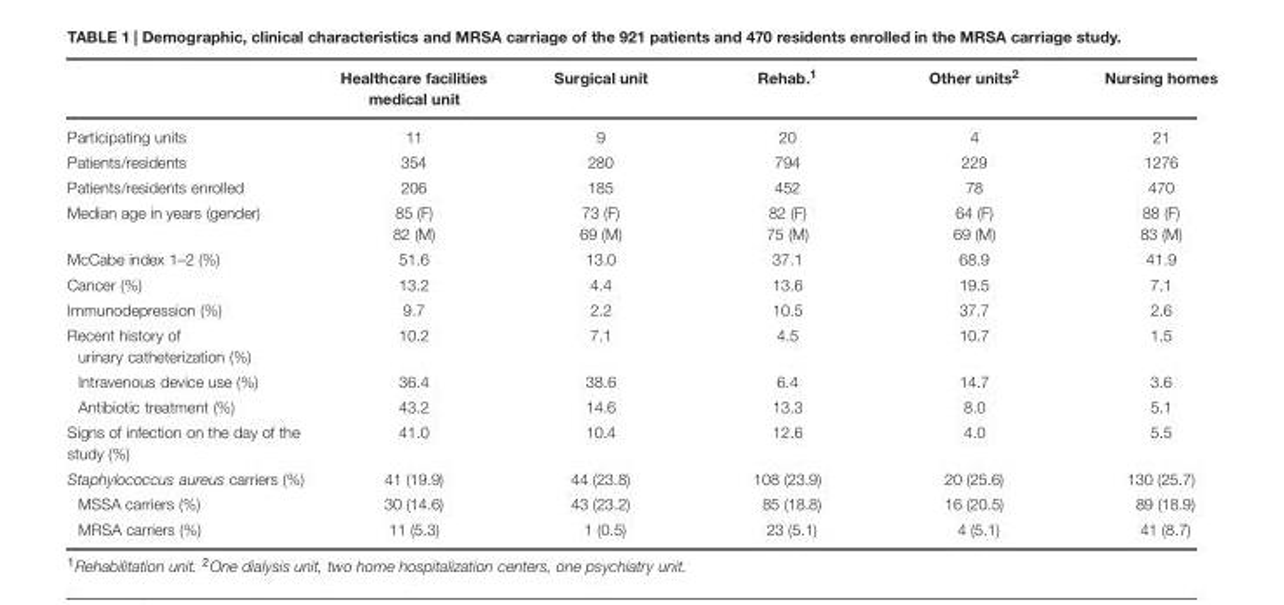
<table><thead><tr><td></td><td>Healthcare facilities medical unit</td><td>Surgical unit</td><td>Rehab.<sup>1</sup></td><td>Other units<sup>2</sup></td><td>Nursing homes</td></tr></thead><tbody><tr><td>Participating units</td><td>11</td><td>9</td><td>20</td><td>4</td><td>21</td></tr><tr><td>Patients/residents</td><td>354</td><td>280</td><td>794</td><td>229</td><td>1276</td></tr><tr><td>Patients/residents enrolled</td><td>206</td><td>185</td><td>452</td><td>78</td><td>470</td></tr><tr><td>Median age in years (gender)</td><td>85 (F) 82 (M)</td><td>73 (F) 69 (M)</td><td>82 (F) 75 (M)</td><td>64 (F) 69 (M)</td><td>88 (F) 83 (M)</td></tr><tr><td>McCabe index 1–2 (%)</td><td>51.6</td><td>13.0</td><td>37.1</td><td>68.9</td><td>41.9</td></tr><tr><td>Cancer (%)</td><td>13.2</td><td>4.4</td><td>13.6</td><td>19.5</td><td>7.1</td></tr><tr><td>Immunodepression (%)</td><td>9.7</td><td>2.2</td><td>10.5</td><td>37.7</td><td>2.6</td></tr><tr><td>Recent history of</td><td>10.2</td><td>7.1</td><td>4.5</td><td>10.7</td><td>1.5</td></tr><tr><td colspan="6">urinary catheterization (%)</td></tr><tr><td>Intravenous device use (%)</td><td>36.4</td><td>38.6</td><td>6.4</td><td>14.7</td><td>3.6</td></tr><tr><td>Antibiotic treatment (%)</td><td>43.2</td><td>14.6</td><td>13.3</td><td>8.0</td><td>5.1</td></tr><tr><td>Signs of infection on the day of the study (%)</td><td>41.0</td><td>10.4</td><td>12.6</td><td>4.0</td><td>5.5</td></tr><tr><td>Staphylococcus aureus carriers (%)</td><td>41 (19.9)</td><td>44 (23.8)</td><td>108 (23.9)</td><td>20 (25.6)</td><td>130 (25.7)</td></tr><tr><td>MSSA carriers (%)</td><td>30 (14.6)</td><td>43 (23.2)</td><td>85 (18.8)</td><td>16 (20.5)</td><td>89 (18.9)</td></tr><tr><td>MRSA carriers (%)</td><td>11 (5.3)</td><td>1 (0.5)</td><td>23 (5.1)</td><td>4 (5.1)</td><td>41 (8.7)</td></tr></tbody></table>